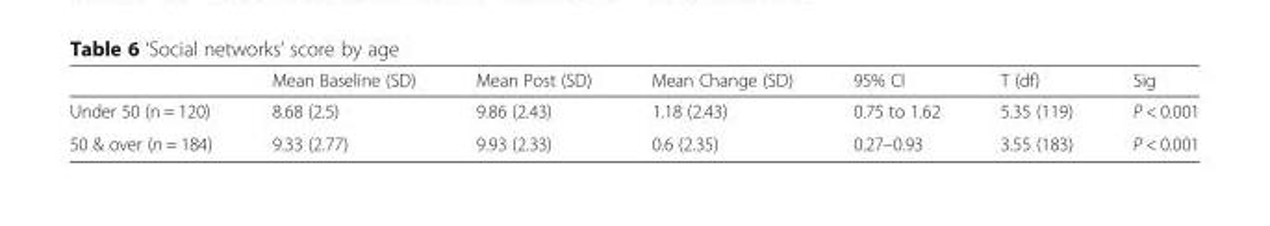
<table><thead><tr><td></td><td>Mean Baseline (SD)</td><td>Mean Post (SD)</td><td>Mean Change (SD)</td><td>95% CI</td><td>T (df)</td><td>Sig</td></tr></thead><tbody><tr><td>Under 50 (n = 120)</td><td>8.68 (2.5)</td><td>9.86 (2.43)</td><td>1.18 (2.43)</td><td>0.75 to 1.62</td><td>5.35 (119)</td><td>P &lt; 0.001</td></tr><tr><td>50 &amp; over (n = 184)</td><td>9.33 (2.77)</td><td>9.93 (2.33)</td><td>0.6 (2.35)</td><td>0.27–0.93</td><td>3.55 (183)</td><td>P &lt; 0.001</td></tr></tbody></table>